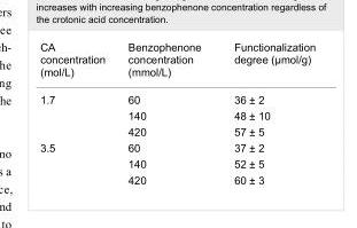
<table><tbody><tr><td>CA concentration (mol/L)</td><td>Benzophenone concentration (mmol/L)</td><td>Functionalization degree (µmol/g)</td></tr><tr><td rowspan="3">1.7</td><td>60</td><td>36 ± 2</td></tr><tr><td>140</td><td>48 ± 10</td></tr><tr><td>420</td><td>57 ± 5</td></tr><tr><td rowspan="3">3.5</td><td>60</td><td>37 ± 2</td></tr><tr><td>140</td><td>52 ± 5</td></tr><tr><td>420</td><td>60 ± 3</td></tr></tbody></table>